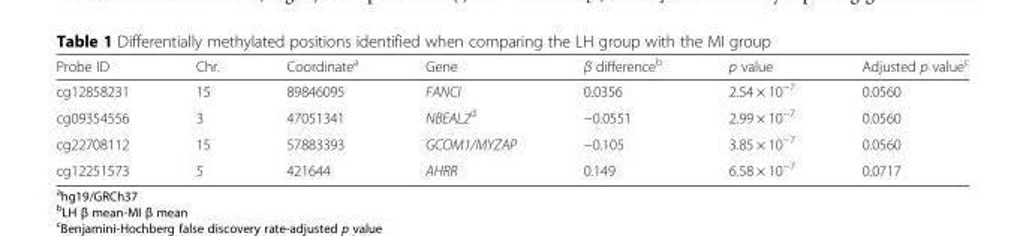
<table><thead><tr><td>Probe ID</td><td>Chr.</td><td>Coordinate<sup>a</sup></td><td>Gene</td><td>β difference<sup>b</sup></td><td>p value</td><td>Adjusted p value<sup>c</sup></td></tr></thead><tbody><tr><td>cg12858231</td><td>15</td><td>89846095</td><td>FANCI</td><td>0.0356</td><td>2.54 × 10<sup>−7</sup></td><td>0.0560</td></tr><tr><td>cg09354556</td><td>3</td><td>47051341</td><td>NBEAL2<sup>d</sup></td><td>−0.0551</td><td>2.99 × 10<sup>−7</sup></td><td>0.0560</td></tr><tr><td>cg22708112</td><td>15</td><td>57883393</td><td>GCOM1/MYZAP</td><td>−0.105</td><td>3.85 × 10<sup>−7</sup></td><td>0.0560</td></tr><tr><td>cg12251573</td><td>5</td><td>421644</td><td>AHRR</td><td>0.149</td><td>6.58 × 10<sup>−7</sup></td><td>0.0717</td></tr></tbody></table>